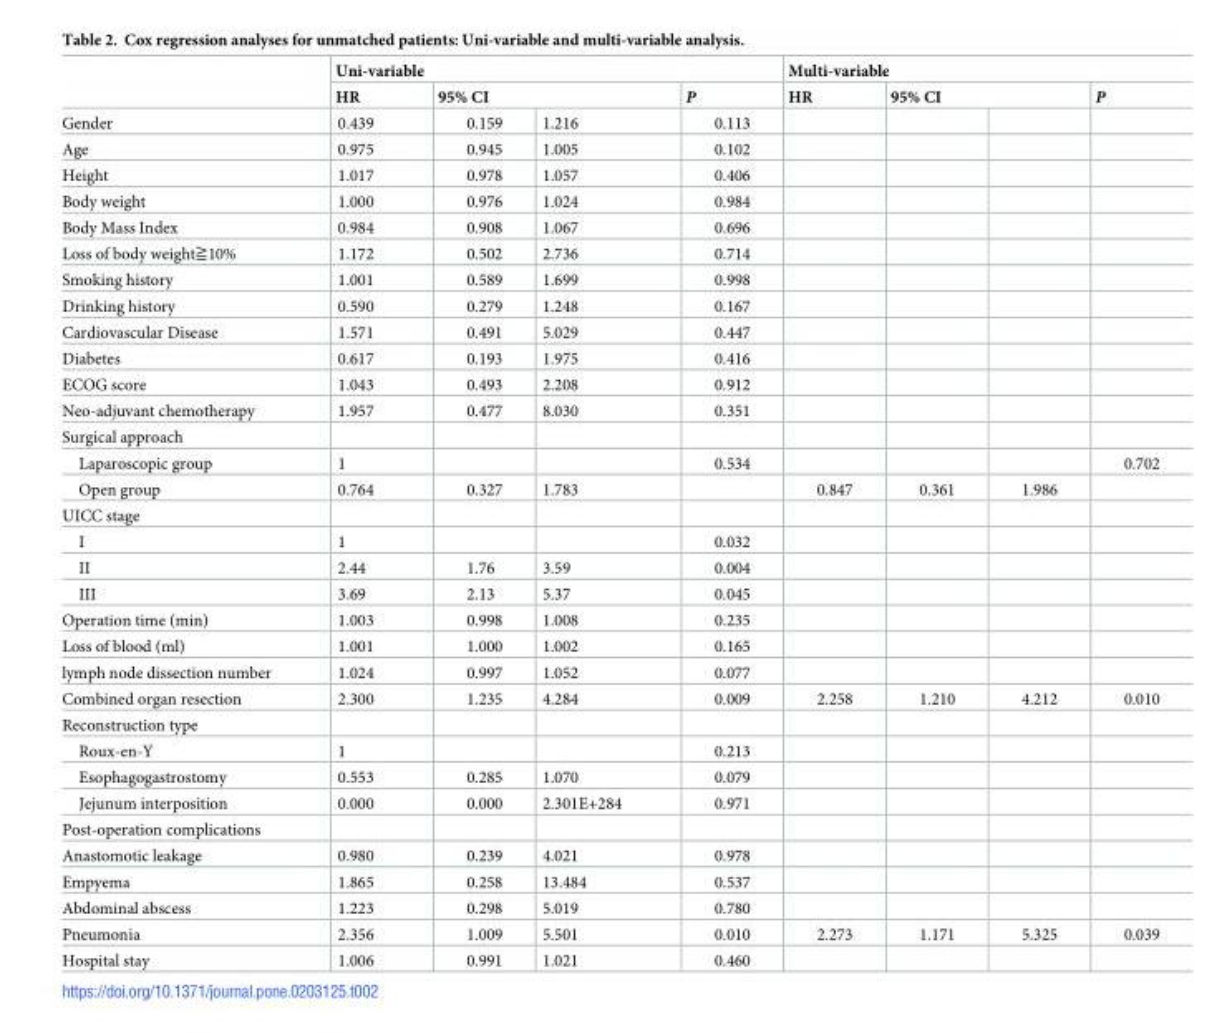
<table><thead><tr><td rowspan="3">Gender</td><td colspan="4">Uni-variable</td><td colspan="4">Multi-variable</td></tr><tr><td rowspan="2">HR 0.439</td><td colspan="2">95% CI</td><td rowspan="2">P 0.113</td><td rowspan="2">HR</td><td colspan="2">95% CI</td><td rowspan="2">P</td></tr><tr><td>0.159</td><td>1.216</td><td></td><td></td></tr></thead><tbody><tr><td>Age</td><td>0.975</td><td>0.945</td><td>1.005</td><td>0.102</td><td></td><td></td><td></td><td></td></tr><tr><td>Height</td><td>1.017</td><td>0.978</td><td>1.057</td><td>0.406</td><td></td><td></td><td></td><td></td></tr><tr><td>Body weight</td><td>1.000</td><td>0.976</td><td>1.024</td><td>0.984</td><td></td><td></td><td></td><td></td></tr><tr><td>Body Mass Index</td><td>0.984</td><td>0.908</td><td>1.067</td><td>0.696</td><td></td><td></td><td></td><td></td></tr><tr><td>Loss of body weight≧10%</td><td>1.172</td><td>0.502</td><td>2.736</td><td>0.714</td><td></td><td></td><td></td><td></td></tr><tr><td>Smoking history</td><td>1.001</td><td>0.589</td><td>1.699</td><td>0.998</td><td></td><td></td><td></td><td></td></tr><tr><td>Drinking history</td><td>0.590</td><td>0.279</td><td>1.248</td><td>0.167</td><td></td><td></td><td></td><td></td></tr><tr><td>Cardiovascular Disease</td><td>1.571</td><td>0.491</td><td>5.029</td><td>0.447</td><td></td><td></td><td></td><td></td></tr><tr><td>Diabetes</td><td>0.617</td><td>0.193</td><td>1.975</td><td>0.416</td><td></td><td></td><td></td><td></td></tr><tr><td>ECOG score</td><td>1.043</td><td>0.493</td><td>2.208</td><td>0.912</td><td></td><td></td><td></td><td></td></tr><tr><td>Neo-adjuvant chemotherapy</td><td>1.957</td><td>0.477</td><td>8.030</td><td>0.351</td><td></td><td></td><td></td><td></td></tr><tr><td colspan="9">Surgical approach</td></tr><tr><td>Laparoscopic group</td><td>1</td><td></td><td></td><td>0.534</td><td></td><td></td><td></td><td>0.702</td></tr><tr><td>Open group</td><td>0.764</td><td>0.327</td><td>1.783</td><td></td><td>0.847</td><td>0.361</td><td>1.986</td><td></td></tr><tr><td colspan="9">UICC stage</td></tr><tr><td>I</td><td>1</td><td></td><td></td><td>0.032</td><td></td><td></td><td></td><td></td></tr><tr><td>II</td><td>2.44</td><td>1.76</td><td>3.59</td><td>0.004</td><td></td><td></td><td></td><td></td></tr><tr><td>III</td><td>3.69</td><td>2.13</td><td>5.37</td><td>0.045</td><td></td><td></td><td></td><td></td></tr><tr><td>Operation time (min)</td><td>1.003</td><td>0.998</td><td>1.008</td><td>0.235</td><td></td><td></td><td></td><td></td></tr><tr><td>Loss of blood (ml)</td><td>1.001</td><td>1.000</td><td>1.002</td><td>0.165</td><td></td><td></td><td></td><td></td></tr><tr><td>lymph node dissection number</td><td>1.024</td><td>0.997</td><td>1.052</td><td>0.077</td><td></td><td></td><td></td><td></td></tr><tr><td>Combined organ resection</td><td>2.300</td><td>1.235</td><td>4.284</td><td>0.009</td><td>2.258</td><td>1.210</td><td>4.212</td><td>0.010</td></tr><tr><td colspan="9">Reconstruction type</td></tr><tr><td>Roux-en-Y</td><td>1</td><td></td><td></td><td>0.213</td><td></td><td></td><td></td><td></td></tr><tr><td>Esophagogastrostomy</td><td>0.553</td><td>0.285</td><td>1.070</td><td>0.079</td><td></td><td></td><td></td><td></td></tr><tr><td>Jejunum interposition</td><td>0.000</td><td>0.000</td><td>2.301E+284</td><td>0.971</td><td></td><td></td><td></td><td></td></tr><tr><td colspan="9">Post-operation complications</td></tr><tr><td>Anastomotic leakage</td><td>0.980</td><td>0.239</td><td>4.021</td><td>0.978</td><td></td><td></td><td></td><td></td></tr><tr><td>Empyema</td><td>1.865</td><td>0.258</td><td>13.484</td><td>0.537</td><td></td><td></td><td></td><td></td></tr><tr><td>Abdominal abscess</td><td>1.223</td><td>0.298</td><td>5.019</td><td>0.780</td><td></td><td></td><td></td><td></td></tr><tr><td>Pneumonia</td><td>2.356</td><td>1.009</td><td>5.501</td><td>0.010</td><td>2.273</td><td>1.171</td><td>5.325</td><td>0.039</td></tr><tr><td>Hospital stay</td><td>1.006</td><td>0.991</td><td>1.021</td><td>0.460</td><td></td><td></td><td></td><td></td></tr></tbody></table>